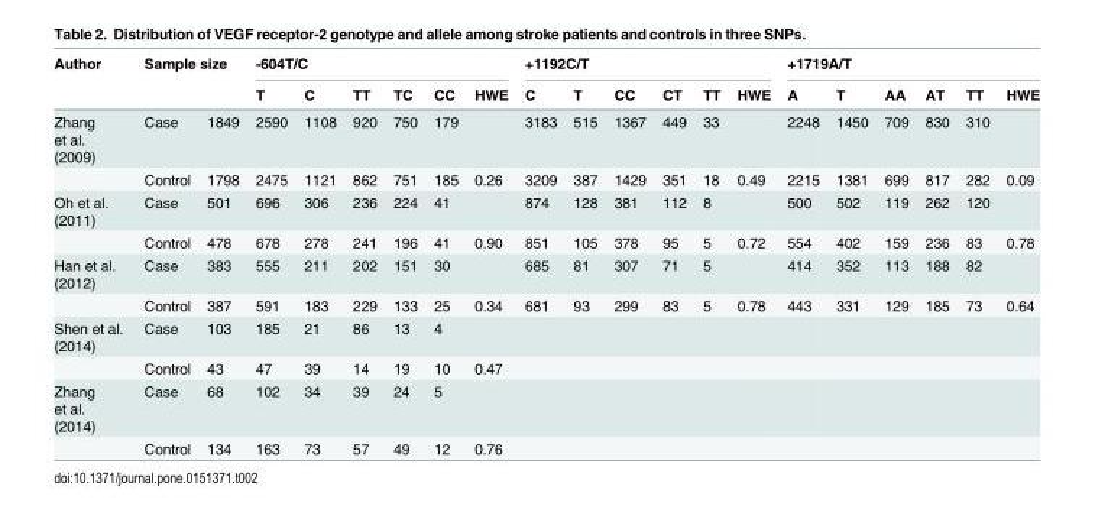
<table><thead><tr><td rowspan="3">Author Zhang et al. (2009)</td><td rowspan="2" colspan="2">Sample size</td><td colspan="6">-604T/C</td><td colspan="6">+1192C/T</td><td colspan="6">+1719A/T</td></tr><tr><td rowspan="2">T 2590</td><td rowspan="2">C 1108</td><td rowspan="2">TT 920</td><td rowspan="2">TC 750</td><td rowspan="2">CC 179</td><td rowspan="2">HWE</td><td rowspan="2">C 3183</td><td rowspan="2">T 515</td><td rowspan="2">CC 1367</td><td rowspan="2">CT 449</td><td rowspan="2">TT 33</td><td rowspan="2">HWE</td><td rowspan="2">A 2248</td><td rowspan="2">T 1450</td><td rowspan="2">AA 709</td><td rowspan="2">AT 830</td><td rowspan="2">TT 310</td><td rowspan="2">HWE</td></tr><tr><td>Case</td><td>1849</td></tr></thead><tbody><tr><td></td><td>Control</td><td>1798</td><td>2475</td><td>1121</td><td>862</td><td>751</td><td>185</td><td>0.26</td><td>3209</td><td>387</td><td>1429</td><td>351</td><td>18</td><td>0.49</td><td>2215</td><td>1381</td><td>699</td><td>817</td><td>282</td><td>0.09</td></tr><tr><td rowspan="2">Oh et al. (2011)</td><td>Case</td><td>501</td><td>696</td><td>306</td><td>236</td><td>224</td><td>41</td><td></td><td>874</td><td>128</td><td>381</td><td>112</td><td>8</td><td></td><td>500</td><td>502</td><td>119</td><td>262</td><td>120</td><td></td></tr><tr><td>Control</td><td>478</td><td>678</td><td>278</td><td>241</td><td>196</td><td>41</td><td>0.90</td><td>851</td><td>105</td><td>378</td><td>95</td><td>5</td><td>0.72</td><td>554</td><td>402</td><td>159</td><td>236</td><td>83</td><td>0.78</td></tr><tr><td rowspan="2">Han et al. (2012)</td><td>Case</td><td>383</td><td>555</td><td>211</td><td>202</td><td>151</td><td>30</td><td></td><td>685</td><td>81</td><td>307</td><td>71</td><td>5</td><td></td><td>414</td><td>352</td><td>113</td><td>188</td><td>82</td><td></td></tr><tr><td>Control</td><td>387</td><td>591</td><td>183</td><td>229</td><td>133</td><td>25</td><td>0.34</td><td>681</td><td>93</td><td>299</td><td>83</td><td>5</td><td>0.78</td><td>443</td><td>331</td><td>129</td><td>185</td><td>73</td><td>0.64</td></tr><tr><td rowspan="2">Shen et al. (2014)</td><td>Case</td><td>103</td><td>185</td><td>21</td><td>86</td><td>13</td><td>4</td><td></td><td></td><td></td><td></td><td></td><td></td><td></td><td></td><td></td><td></td><td></td><td></td><td></td></tr><tr><td>Control</td><td>43</td><td>47</td><td>39</td><td>14</td><td>19</td><td>10</td><td>0.47</td><td></td><td></td><td></td><td></td><td></td><td></td><td></td><td></td><td></td><td></td><td></td><td></td></tr><tr><td rowspan="2">Zhang et al. (2014)</td><td>Case</td><td>68</td><td>102</td><td>34</td><td>39</td><td>24</td><td>5</td><td></td><td></td><td></td><td></td><td></td><td></td><td></td><td></td><td></td><td></td><td></td><td></td><td></td></tr><tr><td>Control</td><td>134</td><td>163</td><td>73</td><td>57</td><td>49</td><td>12</td><td>0.76</td><td></td><td></td><td></td><td></td><td></td><td></td><td></td><td></td><td></td><td></td><td></td><td></td></tr></tbody></table>